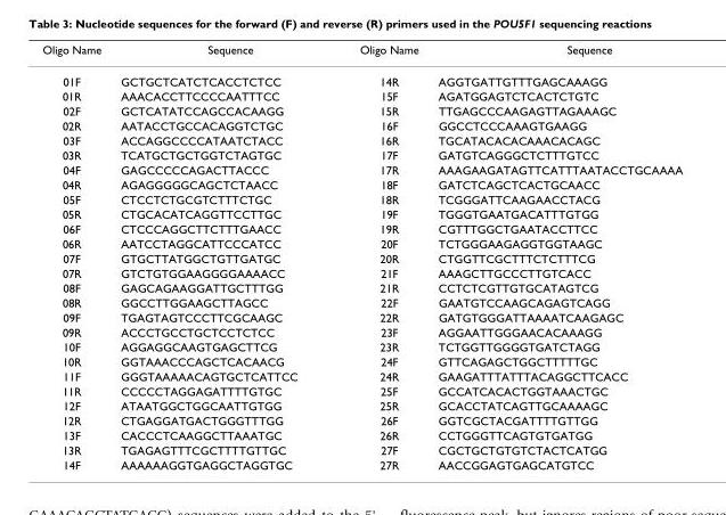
<table><thead><tr><td>Oligo Name</td><td>Sequence</td><td>Oligo Name</td><td>Sequence</td></tr></thead><tbody><tr><td>01F</td><td>GCTGCTCATCTCACCTCTCC</td><td>14R</td><td>AGGTGATTGTTTGAGCAAAGG</td></tr><tr><td>01R</td><td>AAACACCTTCCCCAATTTCC</td><td>15F</td><td>AGATGGAGTCTCACTCTGTC</td></tr><tr><td>02F</td><td>GCTCATATCCAGCCACAAGG</td><td>15R</td><td>TTGAGCCCAAGAGTTAGAAAGC</td></tr><tr><td>02R</td><td>AATACCTGCCACAGGTCTGC</td><td>16F</td><td>GGCCTCCCAAAGTGAAGG</td></tr><tr><td>03F</td><td>ACCAGGCCCCATAATCTACC</td><td>16R</td><td>TGCATACACACAAACACAGC</td></tr><tr><td>03R</td><td>TCATGCTGCTGGTCTAGTGC</td><td>17F</td><td>GATGTCAGGGCTCTTTGTCC</td></tr><tr><td>04F</td><td>GAGCCCCCAGACTTACCC</td><td>17R</td><td>AAAGAAGATAGTTCATTTAATACCTGCAAAA</td></tr><tr><td>04R</td><td>AGAGGGGGCAGCTCTAACC</td><td>18F</td><td>GATCTCAGCTCACTGCAACC</td></tr><tr><td>05F</td><td>CTCCTCTGCGTCTTTCTGC</td><td>18R</td><td>TCGGGATTCAAGAACCTACG</td></tr><tr><td>05R</td><td>CTGCACATCAGGTTCCTTGC</td><td>19F</td><td>TGGGTGAATGACATTTGTGG</td></tr><tr><td>06F</td><td>CTCCCAGGCTTCTTTGAACC</td><td>19R</td><td>CGTTTGGCTGAATACCTTCC</td></tr><tr><td>06R</td><td>AATCCTAGGCATTCCCATCC</td><td>20F</td><td>TCTGGGAAGAGGTGGTAAGC</td></tr><tr><td>07F</td><td>GTGCTTATGGCTGTTGATGC</td><td>20R</td><td>CTGGTTCGCTTTCTCTTTCG</td></tr><tr><td>07R</td><td>GTCTGTGGAAGGGGAAAACC</td><td>21F</td><td>AAAGCTTGCCCTTGTCACC</td></tr><tr><td>08F</td><td>GAGCAGAAGGATTGCTTTGG</td><td>21R</td><td>CCTCTCGTTGTGCATAGTCG</td></tr><tr><td>08R</td><td>GGCCTTGGAAGCTTAGCC</td><td>22F</td><td>GAATGTCCAAGCAGAGTCAGG</td></tr><tr><td>09F</td><td>TGAGTAGTCCCTTCGCAAGC</td><td>22R</td><td>GATGTGGGATTAAAATCAAGAGC</td></tr><tr><td>09R</td><td>ACCCTGCCTGCTCCTCTCC</td><td>23F</td><td>AGGAATTGGGAACACAAAGG</td></tr><tr><td>10F</td><td>AGGAGGCAAGTGAGCTTCG</td><td>23R</td><td>TCTGGTTGGGGTGATCTAGG</td></tr><tr><td>10R</td><td>GGTAAACCCAGCTCACAACG</td><td>24F</td><td>GTTCAGAGCTGGCTTTTTGC</td></tr><tr><td>11F</td><td>GGGTAAAAACAGTGCTCATTCC</td><td>24R</td><td>GAAGATTTATTTACAGGCTTCACC</td></tr><tr><td>11R</td><td>CCCCCTAGGAGATTTTGTGC</td><td>25F</td><td>GCCATCACACTGGTAAACTGC</td></tr><tr><td>12F</td><td>ATAATGGCTGGCAATTGTGG</td><td>25R</td><td>GCACCTATCAGTTGCAAAAGC</td></tr><tr><td>12R</td><td>CTGAGGATGACTGGGTTTGG</td><td>26F</td><td>GGTCGCTACGATTTTGTTGG</td></tr><tr><td>13F</td><td>CACCCTCAAGGCTTAAATGC</td><td>26R</td><td>CCTGGGTTCAGTGTGATGG</td></tr><tr><td>13R</td><td>TGAGAGTTTCGCTTTTGTTGC</td><td>27F</td><td>CGCTGCTGTGTCTACTCATGG</td></tr><tr><td>14F</td><td>AAAAAAGGTGAGGCTAGGTGC</td><td>27R</td><td>AACCGGAGTGAGCATGTCC</td></tr></tbody></table>